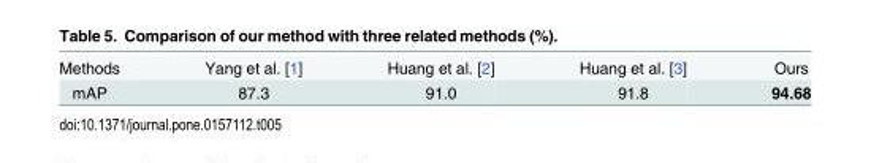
<table><tbody><tr><td>Methods</td><td>Yang et al. [1]</td><td>Huang et al. [2]</td><td>Huang et al. [3]</td><td>Ours</td></tr><tr><td>mAP</td><td>87.3</td><td>91.0</td><td>91.8</td><td>94.68</td></tr></tbody></table>